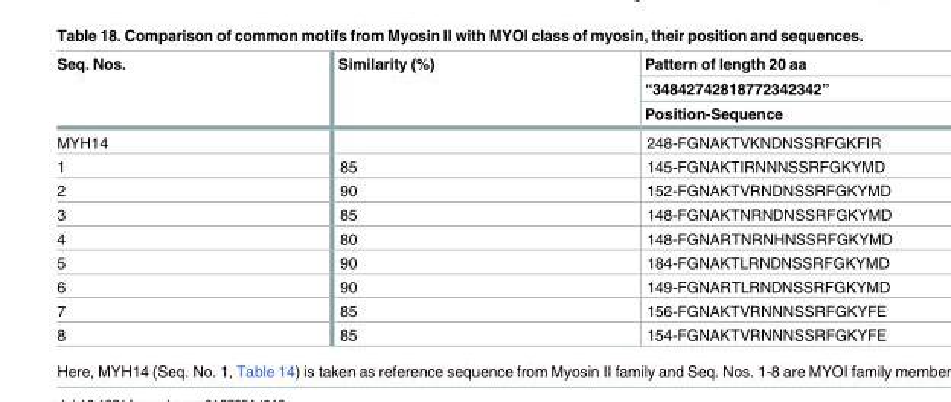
<table><thead><tr><td rowspan="3">Seq. Nos.</td><td rowspan="3">Similarity (%)</td><td rowspan="3">Pattern of length 20 aa “34842742818772342342” Position-Sequence</td></tr><tr></tr><tr></tr></thead><tbody><tr><td>MYH14</td><td></td><td>248-FGNAKTVKNDNSSRFGKFIR</td></tr><tr><td>1</td><td>85</td><td>145-FGNAKTIRNNNSSRFGKYMD</td></tr><tr><td>2</td><td>90</td><td>152-FGNAKTVRNDNSSRFGKYMD</td></tr><tr><td>3</td><td>85</td><td>148-FGNAKTNRNDNSSRFGKYMD</td></tr><tr><td>4</td><td>80</td><td>148-FGNARTNRNHNSSRFGKYMD</td></tr><tr><td>5</td><td>90</td><td>184-FGNAKTLRNDNSSRFGKYMD</td></tr><tr><td>6</td><td>90</td><td>149-FGNARTLRNDNSSRFGKYMD</td></tr><tr><td>7</td><td>85</td><td>156-FGNAKTVRNNNSSRFGKYFE</td></tr><tr><td>8</td><td>85</td><td>154-FGNAKTVRNNNSSRFGKYFE</td></tr></tbody></table>